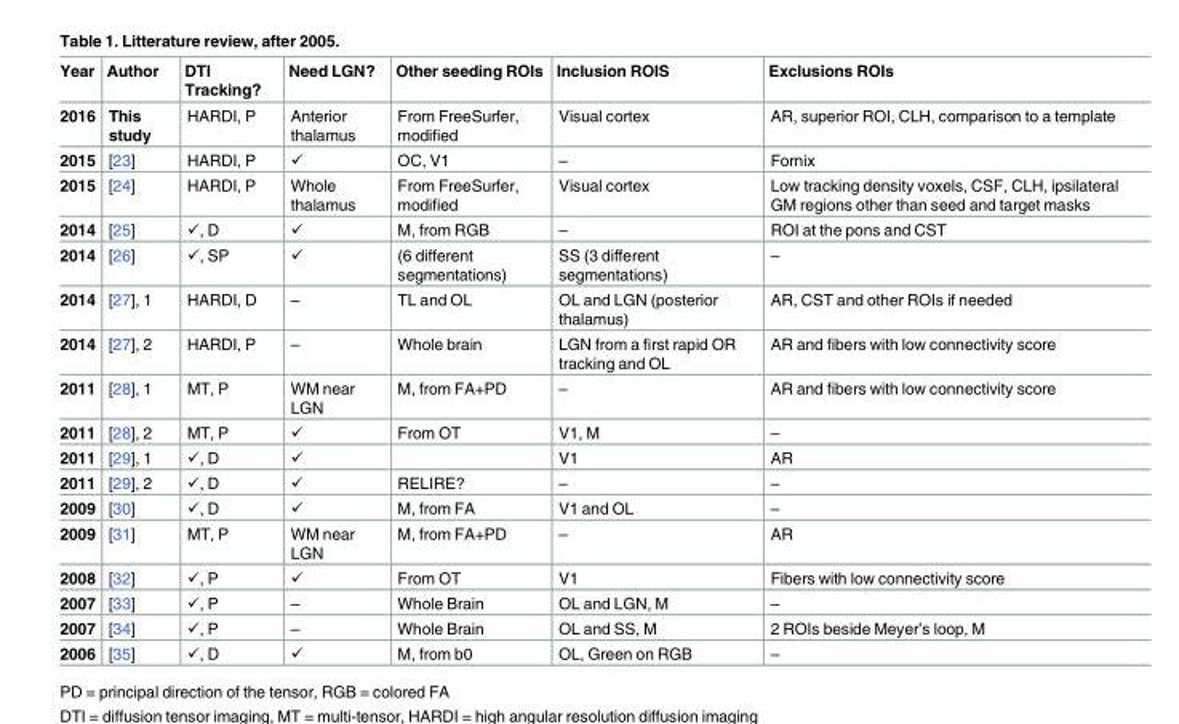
<table><thead><tr><td>Year</td><td>Author</td><td>DTI Tracking?</td><td>Need LGN?</td><td>Other seeding ROIs</td><td>Inclusion ROIS</td><td>Exclusions ROIs</td></tr></thead><tbody><tr><td>2016</td><td>This study</td><td>HARDI, P</td><td>Anterior thalamus</td><td>From FreeSurfer, modified</td><td>Visual cortex</td><td>AR, superior ROI, CLH, comparison to a template</td></tr><tr><td>2015</td><td>[23]</td><td>HARDI, P</td><td>✓</td><td>OC, V1</td><td>–</td><td>Fornix</td></tr><tr><td>2015</td><td>[24]</td><td>HARDI, P</td><td>Whole thalamus</td><td>From FreeSurfer, modified</td><td>Visual cortex</td><td>Low tracking density voxels, CSF, CLH, ipsilateral GM regions other than seed and target masks</td></tr><tr><td>2014</td><td>[25]</td><td>✓, D</td><td>✓</td><td>M, from RGB</td><td>–</td><td>ROI at the pons and CST</td></tr><tr><td>2014</td><td>[26]</td><td>✓, SP</td><td>✓</td><td>(6 different segmentations)</td><td>SS (3 different segmentations)</td><td>–</td></tr><tr><td>2014</td><td>[27], 1</td><td>HARDI, D</td><td>–</td><td>TL and OL</td><td>OL and LGN (posterior thalamus)</td><td>AR, CST and other ROIs if needed</td></tr><tr><td>2014</td><td>[27], 2</td><td>HARDI, P</td><td>–</td><td>Whole brain</td><td>LGN from a first rapid OR tracking and OL</td><td>AR and fibers with low connectivity score</td></tr><tr><td>2011</td><td>[28], 1</td><td>MT, P</td><td>WM near LGN</td><td>M, from FA+PD</td><td>–</td><td>AR and fibers with low connectivity score</td></tr><tr><td>2011</td><td>[28], 2</td><td>MT, P</td><td>✓</td><td>From OT</td><td>V1, M</td><td>–</td></tr><tr><td>2011</td><td>[29], 1</td><td>✓, D</td><td>✓</td><td></td><td>V1</td><td>AR</td></tr><tr><td>2011</td><td>[29], 2</td><td>✓, D</td><td>✓</td><td>RELIRE?</td><td>–</td><td>–</td></tr><tr><td>2009</td><td>[30]</td><td>✓, D</td><td>✓</td><td>M, from FA</td><td>V1 and OL</td><td>–</td></tr><tr><td>2009</td><td>[31]</td><td>MT, P</td><td>WM near LGN</td><td>M, from FA+PD</td><td>–</td><td>AR</td></tr><tr><td>2008</td><td>[32]</td><td>✓, P</td><td>✓</td><td>From OT</td><td>V1</td><td>Fibers with low connectivity score</td></tr><tr><td>2007</td><td>[33]</td><td>✓, P</td><td>–</td><td>Whole Brain</td><td>OL and LGN, M</td><td>–</td></tr><tr><td>2007</td><td>[34]</td><td>✓, P</td><td>–</td><td>Whole Brain</td><td>OL and SS, M</td><td>2 ROIs beside Meyer’s loop, M</td></tr><tr><td>2006</td><td>[35]</td><td>✓, D</td><td>✓</td><td>M, from b0</td><td>OL, Green on RGB</td><td>–</td></tr></tbody></table>